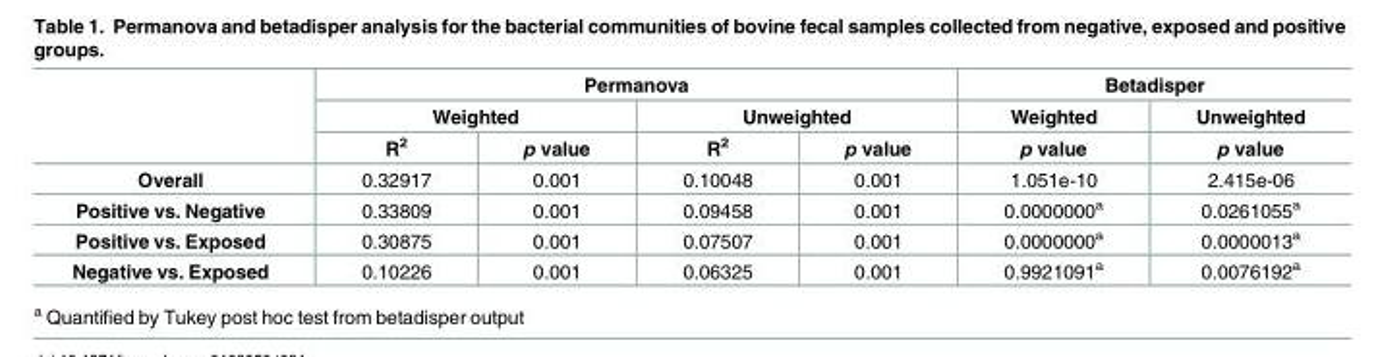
<table><thead><tr><td rowspan="3"></td><td colspan="4">Permanova</td><td colspan="2">Betadisper</td></tr><tr><td colspan="2">Weighted</td><td colspan="2">Unweighted</td><td rowspan="2">Weighted p value</td><td rowspan="2">Unweighted p value</td></tr><tr><td>R<sup>2</sup></td><td>p value</td><td>R<sup>2</sup></td><td>p value</td></tr></thead><tbody><tr><td>Overall</td><td>0.32917</td><td>0.001</td><td>0.10048</td><td>0.001</td><td>1.051e-10</td><td>2.415e-06</td></tr><tr><td>Positive vs. Negative</td><td>0.33809</td><td>0.001</td><td>0.09458</td><td>0.001</td><td>0.0000000<sup>a</sup></td><td>0.0261055<sup>a</sup></td></tr><tr><td>Positive vs. Exposed</td><td>0.30875</td><td>0.001</td><td>0.07507</td><td>0.001</td><td>0.0000000<sup>a</sup></td><td>0.0000013<sup>a</sup></td></tr><tr><td>Negative vs. Exposed</td><td>0.10226</td><td>0.001</td><td>0.06325</td><td>0.001</td><td>0.9921091<sup>a</sup></td><td>0.0076192<sup>a</sup></td></tr></tbody></table>